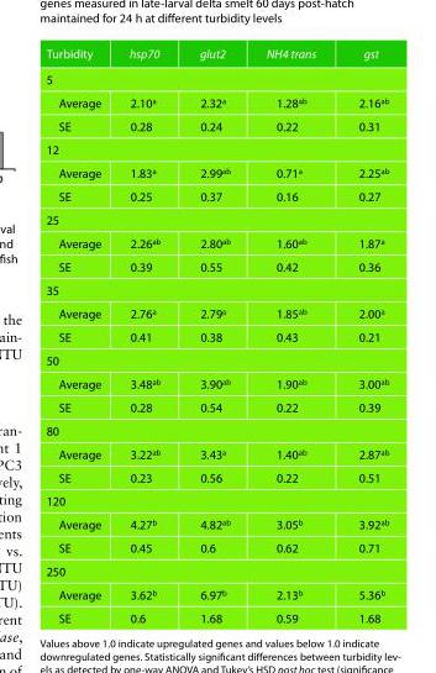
<table><thead><tr><td>Turbidity</td><td>hsp70</td><td>glut2</td><td>NH4 trans</td><td>gst</td></tr></thead><tbody><tr><td colspan="5">5</td></tr><tr><td>Average</td><td>2.10<sup>a</sup></td><td>2.32<sup>a</sup></td><td>1.28<sup>ab</sup></td><td>2.16<sup>ab</sup></td></tr><tr><td>SE</td><td>0.28</td><td>0.24</td><td>0.22</td><td>0.31</td></tr><tr><td colspan="5">12</td></tr><tr><td>Average</td><td>1.83<sup>a</sup></td><td>2.99<sup>ab</sup></td><td>0.71<sup>a</sup></td><td>2.25<sup>ab</sup></td></tr><tr><td>SE</td><td>0.25</td><td>0.37</td><td>0.16</td><td>0.27</td></tr><tr><td colspan="5">25</td></tr><tr><td>Average</td><td>2.26<sup>ab</sup></td><td>2.80<sup>ab</sup></td><td>1.60<sup>ab</sup></td><td>1.87<sup>a</sup></td></tr><tr><td>SE</td><td>0.39</td><td>0.55</td><td>0.42</td><td>0.36</td></tr><tr><td colspan="5">35</td></tr><tr><td>Average</td><td>2.76<sup>a</sup></td><td>2.79<sup>a</sup></td><td>1.85<sup>ab</sup></td><td>2.00<sup>a</sup></td></tr><tr><td>SE</td><td>0.41</td><td>0.38</td><td>0.43</td><td>0.21</td></tr><tr><td colspan="5">50</td></tr><tr><td>Average</td><td>3.48<sup>ab</sup></td><td>3.90<sup>ab</sup></td><td>1.90<sup>ab</sup></td><td>3.00<sup>ab</sup></td></tr><tr><td>SE</td><td>0.28</td><td>0.54</td><td>0.22</td><td>0.39</td></tr><tr><td colspan="5">80</td></tr><tr><td>Average</td><td>3.22<sup>ab</sup></td><td>3.43<sup>a</sup></td><td>1.40<sup>ab</sup></td><td>2.87<sup>ab</sup></td></tr><tr><td>SE</td><td>0.23</td><td>0.56</td><td>0.22</td><td>0.51</td></tr><tr><td colspan="5">120</td></tr><tr><td>Average</td><td>4.27<sup>b</sup></td><td>4.82<sup>ab</sup></td><td>3.05<sup>b</sup></td><td>3.92<sup>ab</sup></td></tr><tr><td>SE</td><td>0.45</td><td>0.6</td><td>0.62</td><td>0.71</td></tr><tr><td colspan="5">250</td></tr><tr><td>Average</td><td>3.62<sup>b</sup></td><td>6.97<sup>b</sup></td><td>2.13<sup>b</sup></td><td>5.36<sup>b</sup></td></tr><tr><td>SE</td><td>0.6</td><td>1.68</td><td>0.59</td><td>1.68</td></tr></tbody></table>